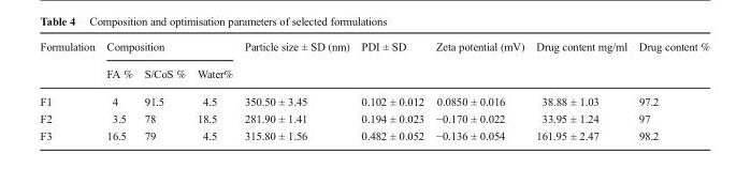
<table><thead><tr><td rowspan="2">Formulation</td><td colspan="3">Composition</td><td rowspan="2">Particle size ± SD (nm)</td><td rowspan="2">PDI ± SD</td><td rowspan="2">Zeta potential (mV)</td><td rowspan="2">Drug content mg/ml</td><td rowspan="2">Drug content %</td></tr><tr><td>FA %</td><td>S/CoS %</td><td>Water%</td></tr></thead><tbody><tr><td>F1</td><td>4</td><td>91.5</td><td>4.5</td><td>350.50 ± 3.45</td><td>0.102 ± 0.012</td><td>0.0850 ± 0.016</td><td>38.88 ± 1.03</td><td>97.2</td></tr><tr><td>F2</td><td>3.5</td><td>78</td><td>18.5</td><td>281.90 ± 1.41</td><td>0.194 ± 0.023</td><td>−0.170 ± 0.022</td><td>33.95 ± 1.24</td><td>97</td></tr><tr><td>F3</td><td>16.5</td><td>79</td><td>4.5</td><td>315.80 ± 1.56</td><td>0.482 ± 0.052</td><td>−0.136 ± 0.054</td><td>161.95 ± 2.47</td><td>98.2</td></tr></tbody></table>